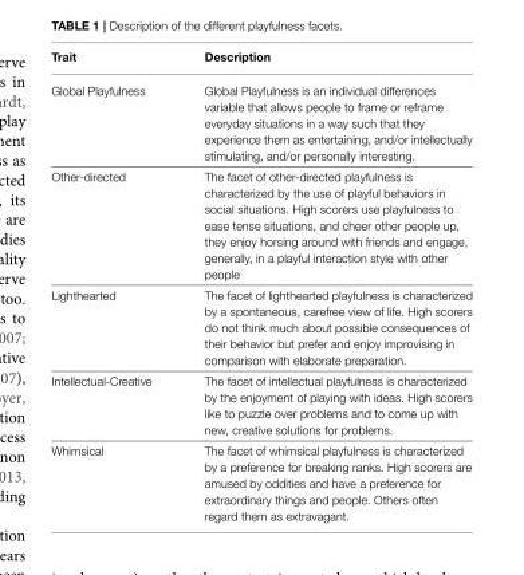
<table><thead><tr><td>Trait</td><td>Description</td></tr></thead><tbody><tr><td>Global Playfulness</td><td>Global Playfulness is an individual differences variable that allows people to frame or reframe everyday situations in a way such that they experience them as entertaining, and/or intellectually stimulating, and/or personally interesting.</td></tr><tr><td>Other-directed</td><td>The facet of other-directed playfulness is characterized by the use of playful behaviors in social situations. High scorers use playfulness to ease tense situations, and cheer other people up, they enjoy horsing around with friends and engage, generally, in a playful interaction style with other people</td></tr><tr><td>Lighthearted</td><td>The facet of lighthearted playfulness is characterized by a spontaneous, carefree view of life. High scorers do not think much about possible consequences of their behavior but prefer and enjoy improvising in comparison with elaborate preparation.</td></tr><tr><td>Intellectual-Creative</td><td>The facet of intellectual playfulness is characterized by the enjoyment of playing with ideas. High scorers like to puzzle over problems and to come up with new, creative solutions for problems.</td></tr><tr><td>Whimsical</td><td>The facet of whimsical playfulness is characterized by a preference for breaking ranks. High scorers are amused by oddities and have a preference for extraordinary things and people. Others often regard them as extravagant.</td></tr></tbody></table>